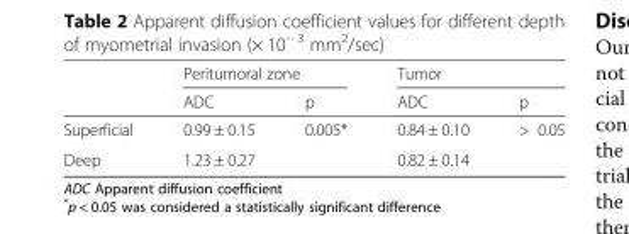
<table><thead><tr><td rowspan="2"></td><td colspan="2">Peritumoral zone</td><td colspan="2">Tumor</td></tr><tr><td>ADC</td><td>p</td><td>ADC</td><td>p</td></tr></thead><tbody><tr><td>Superficial</td><td>0.99 ± 0.15</td><td rowspan="2">0.005*</td><td>0.84 ± 0.10</td><td rowspan="2">&gt; 0.05</td></tr><tr><td>Deep</td><td>1.23 ± 0.27</td><td>0.82 ± 0.14</td></tr></tbody></table>